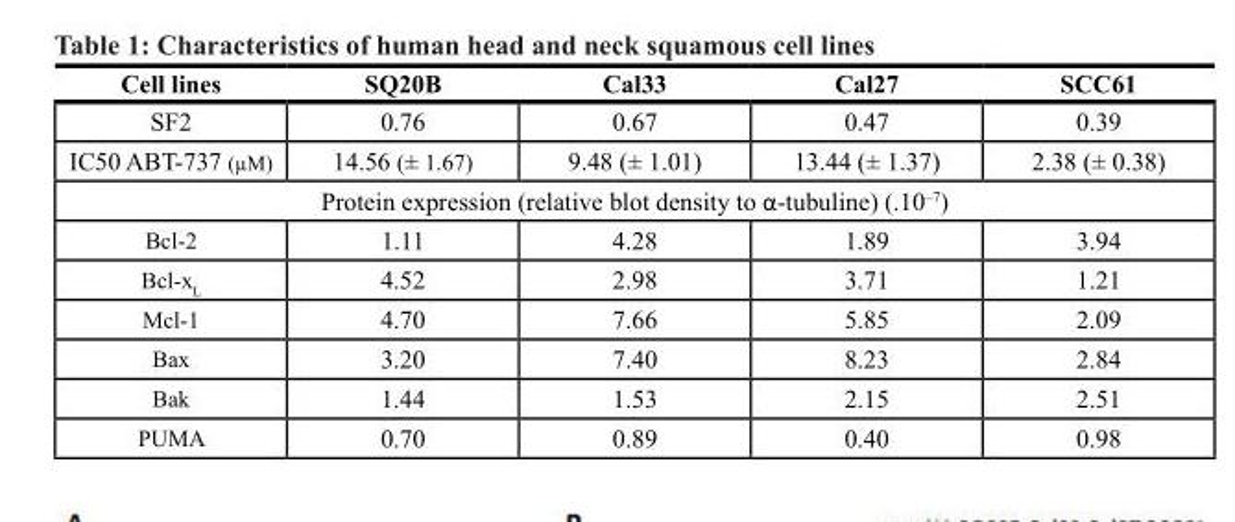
<table><thead><tr><td>Cell lines</td><td>SQ20B</td><td>Cal33</td><td>Cal27</td><td>SCC61</td></tr></thead><tbody><tr><td>SF2</td><td>0.76</td><td>0.67</td><td>0.47</td><td>0.39</td></tr><tr><td>IC50 ABT-737 (µM)</td><td>14.56 (± 1.67)</td><td>9.48 (± 1.01)</td><td>13.44 (± 1.37)</td><td>2.38 (± 0.38)</td></tr><tr><td colspan="5">Protein expression (relative blot density to α-tubuline) (.10<sup>–7</sup>)</td></tr><tr><td>Bcl-2</td><td>1.11</td><td>4.28</td><td>1.89</td><td>3.94</td></tr><tr><td>Bcl-x<sub>L</sub></td><td>4.52</td><td>2.98</td><td>3.71</td><td>1.21</td></tr><tr><td>Mcl-1</td><td>4.70</td><td>7.66</td><td>5.85</td><td>2.09</td></tr><tr><td>Bax</td><td>3.20</td><td>7.40</td><td>8.23</td><td>2.84</td></tr><tr><td>Bak</td><td>1.44</td><td>1.53</td><td>2.15</td><td>2.51</td></tr><tr><td>PUMA</td><td>0.70</td><td>0.89</td><td>0.40</td><td>0.98</td></tr></tbody></table>